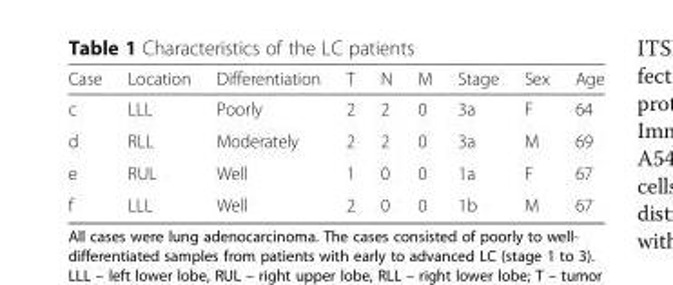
<table><thead><tr><td>Case</td><td>Location</td><td>Differentiation</td><td>T</td><td>N</td><td>M</td><td>Stage</td><td>Sex</td><td>Age</td></tr></thead><tbody><tr><td>c</td><td>LLL</td><td>Poorly</td><td>2</td><td>2</td><td>0</td><td>3a</td><td>F</td><td>64</td></tr><tr><td>d</td><td>RLL</td><td>Moderately</td><td>2</td><td>2</td><td>0</td><td>3a</td><td>M</td><td>69</td></tr><tr><td>e</td><td>RUL</td><td>Well</td><td>1</td><td>0</td><td>0</td><td>1a</td><td>F</td><td>67</td></tr><tr><td>f</td><td>LLL</td><td>Well</td><td>2</td><td>0</td><td>0</td><td>1b</td><td>M</td><td>67</td></tr></tbody></table>